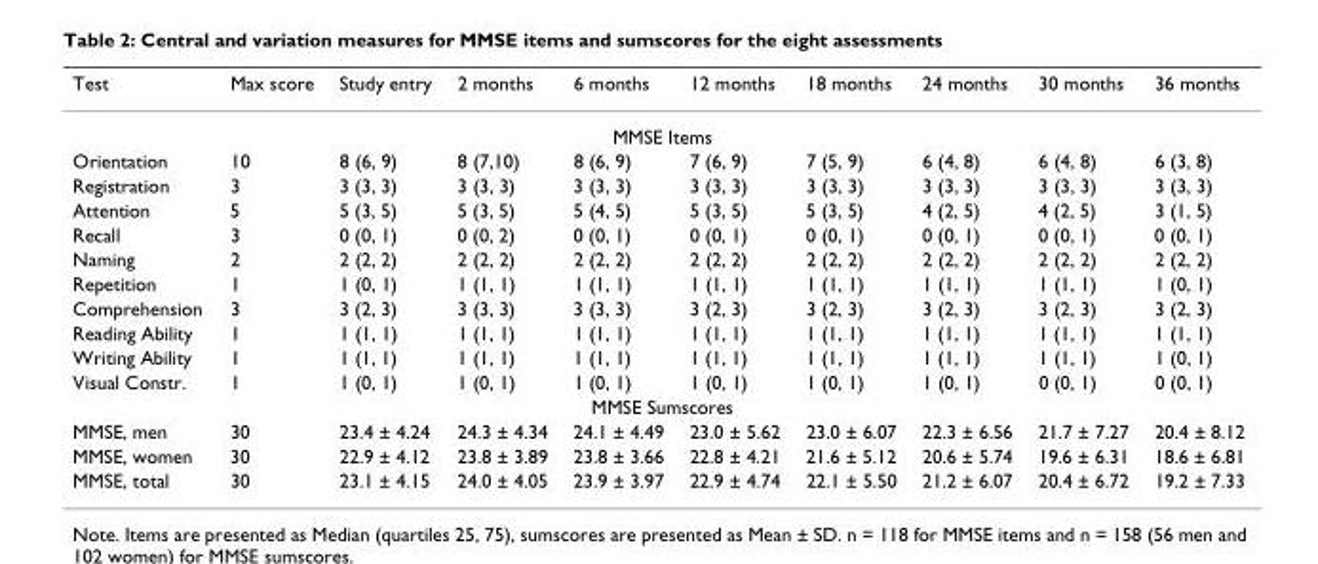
<table><thead><tr><td>Test</td><td>Max score</td><td>Study entry</td><td>2 months</td><td>6 months</td><td>12 months</td><td>18 months</td><td>24 months</td><td>30 months</td><td>36 months</td></tr></thead><tbody><tr><td colspan="10">MMSE Items</td></tr><tr><td>Orientation</td><td>10</td><td>8 (6, 9)</td><td>8 (7,10)</td><td>8 (6, 9)</td><td>7 (6, 9)</td><td>7 (5, 9)</td><td>6 (4, 8)</td><td>6 (4, 8)</td><td>6 (3, 8)</td></tr><tr><td>Registration</td><td>3</td><td>3 (3, 3)</td><td>3 (3, 3)</td><td>3 (3, 3)</td><td>3 (3, 3)</td><td>3 (3, 3)</td><td>3 (3, 3)</td><td>3 (3, 3)</td><td>3 (3, 3)</td></tr><tr><td>Attention</td><td>5</td><td>5 (3, 5)</td><td>5 (3, 5)</td><td>5 (4, 5)</td><td>5 (3, 5)</td><td>5 (3, 5)</td><td>4 (2, 5)</td><td>4 (2, 5)</td><td>3 (1, 5)</td></tr><tr><td>Recall</td><td>3</td><td>0 (0, 1)</td><td>0 (0, 2)</td><td>0 (0, 1)</td><td>0 (0, 1)</td><td>0 (0, 1)</td><td>0 (0, 1)</td><td>0 (0, 1)</td><td>0 (0, 1)</td></tr><tr><td>Naming</td><td>2</td><td>2 (2, 2)</td><td>2 (2, 2)</td><td>2 (2, 2)</td><td>2 (2, 2)</td><td>2 (2, 2)</td><td>2 (2, 2)</td><td>2 (2, 2)</td><td>2 (2, 2)</td></tr><tr><td>Repetition</td><td>1</td><td>1 (0, 1)</td><td>1 (1, 1)</td><td>1 (1, 1)</td><td>1 (1, 1)</td><td>1 (1, 1)</td><td>1 (1, 1)</td><td>1 (1, 1)</td><td>1 (0, 1)</td></tr><tr><td>Comprehension</td><td>3</td><td>3 (2, 3)</td><td>3 (3, 3)</td><td>3 (3, 3)</td><td>3 (2, 3)</td><td>3 (2, 3)</td><td>3 (2, 3)</td><td>3 (2, 3)</td><td>3 (2, 3)</td></tr><tr><td>Reading Ability</td><td>1</td><td>1 (1, 1)</td><td>1 (1, 1)</td><td>1 (1, 1)</td><td>1 (1, 1)</td><td>1 (1, 1)</td><td>1 (1, 1)</td><td>1 (1, 1)</td><td>1 (1, 1)</td></tr><tr><td>Writing Ability</td><td>1</td><td>1 (1, 1)</td><td>1 (1, 1)</td><td>1 (1, 1)</td><td>1 (1, 1)</td><td>1 (1, 1)</td><td>1 (1, 1)</td><td>1 (1, 1)</td><td>1 (0, 1)</td></tr><tr><td>Visual Constr.</td><td>1</td><td>1 (0, 1)</td><td>1 (0, 1)</td><td>1 (0, 1)</td><td>1 (0, 1)</td><td>1 (0, 1)</td><td>1 (0, 1)</td><td>0 (0, 1)</td><td>0 (0, 1)</td></tr><tr><td colspan="10">MMSE Sumscores</td></tr><tr><td>MMSE, men</td><td>30</td><td>23.4 ± 4.24</td><td>24.3 ± 4.34</td><td>24.1 ± 4.49</td><td>23.0 ± 5.62</td><td>23.0 ± 6.07</td><td>22.3 ± 6.56</td><td>21.7 ± 7.27</td><td>20.4 ± 8.12</td></tr><tr><td>MMSE, women</td><td>30</td><td>22.9 ± 4.12</td><td>23.8 ± 3.89</td><td>23.8 ± 3.66</td><td>22.8 ± 4.21</td><td>21.6 ± 5.12</td><td>20.6 ± 5.74</td><td>19.6 ± 6.31</td><td>18.6 ± 6.81</td></tr><tr><td>MMSE, total</td><td>30</td><td>23.1 ± 4.15</td><td>24.0 ± 4.05</td><td>23.9 ± 3.97</td><td>22.9 ± 4.74</td><td>22.1 ± 5.50</td><td>21.2 ± 6.07</td><td>20.4 ± 6.72</td><td>19.2 ± 7.33</td></tr></tbody></table>